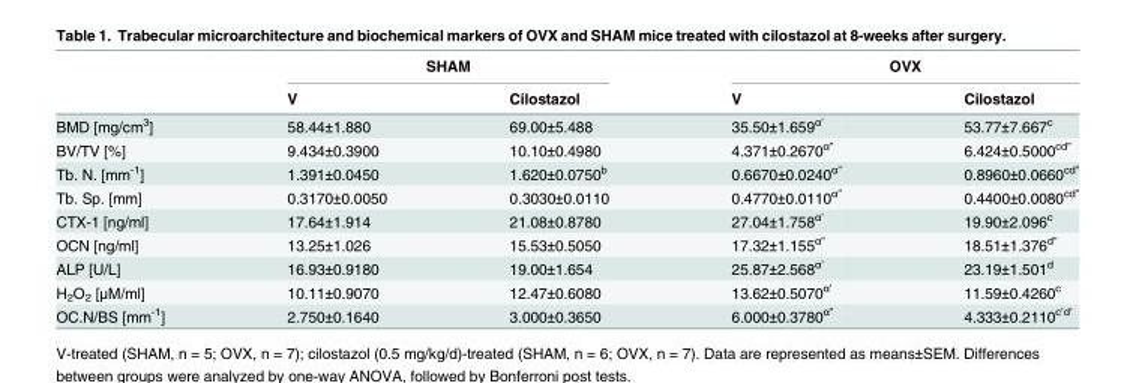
<table><thead><tr><td rowspan="2"></td><td colspan="2">SHAM</td><td colspan="2">OVX</td></tr><tr><td>V</td><td>Cilostazol</td><td>V</td><td>Cilostazol</td></tr></thead><tbody><tr><td>BMD [mg/cm<sup>3</sup>]</td><td>58.44±1.880</td><td>69.00±5.488</td><td>35.50±1.659<sup>α’</sup></td><td>53.77±7.667<sup>c</sup></td></tr><tr><td>BV/TV [%]</td><td>9.434±0.3900</td><td>10.10±0.4980</td><td>4.371±0.2670<sup>α”</sup></td><td>6.424±0.5000<sup>cd”</sup></td></tr><tr><td>Tb. N. [mm<sup>-1</sup>]</td><td>1.391±0.0450</td><td>1.620±0.0750<sup>b</sup></td><td>0.6670±0.0240<sup>α”</sup></td><td>0.8960±0.0660<sup>cd”</sup></td></tr><tr><td>Tb. Sp. [mm]</td><td>0.3170±0.0050</td><td>0.3030±0.0110</td><td>0.4770±0.0110<sup>α”</sup></td><td>0.4400±0.0080<sup>cd”</sup></td></tr><tr><td>CTX-1 [ng/ml]</td><td>17.64±1.914</td><td>21.08±0.8780</td><td>27.04±1.758<sup>α’</sup></td><td>19.90±2.096<sup>c</sup></td></tr><tr><td>OCN [ng/ml]</td><td>13.25±1.026</td><td>15.53±0.5050</td><td>17.32±1.155<sup>α”</sup></td><td>18.51±1.376<sup>d”</sup></td></tr><tr><td>ALP [U/L]</td><td>16.93±0.9180</td><td>19.00±1.654</td><td>25.87±2.568<sup>α’</sup></td><td>23.19±1.501<sup>d</sup></td></tr><tr><td>H<sub>2</sub>O<sub>2</sub> [μM/ml]</td><td>10.11±0.9070</td><td>12.47±0.6080</td><td>13.62±0.5070<sup>α’</sup></td><td>11.59±0.4260<sup>c</sup></td></tr><tr><td>OC.N/BS [mm<sup>-1</sup>]</td><td>2.750±0.1640</td><td>3.000±0.3650</td><td>6.000±0.3780<sup>α”</sup></td><td>4.333±0.2110<sup>c’d’</sup></td></tr></tbody></table>